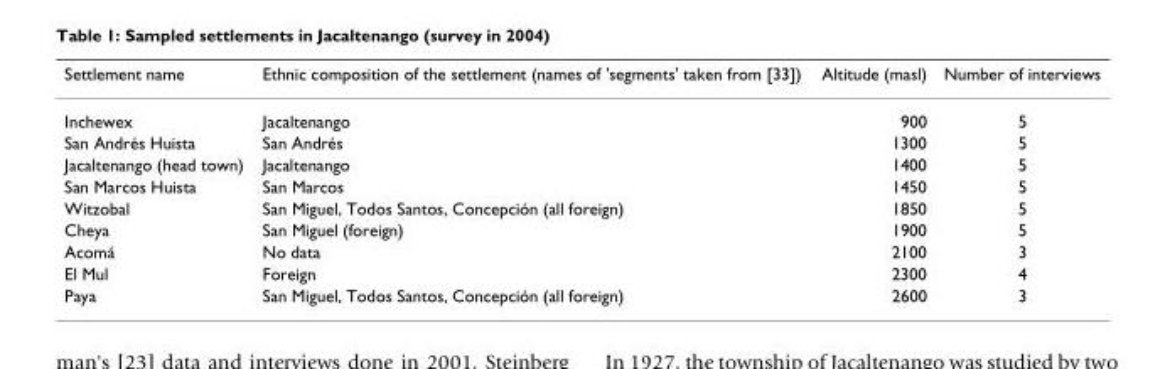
<table><thead><tr><td>Settlement name</td><td>Ethnic composition of the settlement (names of &#x27;segments&#x27; taken from [33])</td><td>Altitude (masl)</td><td>Number of interviews</td></tr></thead><tbody><tr><td>Inchewex</td><td>Jacaltenango</td><td>900</td><td>5</td></tr><tr><td>San Andrés Huista</td><td>San Andrés</td><td>1300</td><td>5</td></tr><tr><td>Jacaltenango (head town)</td><td>Jacaltenango</td><td>1400</td><td>5</td></tr><tr><td>San Marcos Huista</td><td>San Marcos</td><td>1450</td><td>5</td></tr><tr><td>Witzobal</td><td>San Miguel, Todos Santos, Concepción (all foreign)</td><td>1850</td><td>5</td></tr><tr><td>Cheya</td><td>San Miguel (foreign)</td><td>1900</td><td>5</td></tr><tr><td>Acomá</td><td>No data</td><td>2100</td><td>3</td></tr><tr><td>El Mul</td><td>Foreign</td><td>2300</td><td>4</td></tr><tr><td>Paya</td><td>San Miguel, Todos Santos, Concepción (all foreign)</td><td>2600</td><td>3</td></tr></tbody></table>